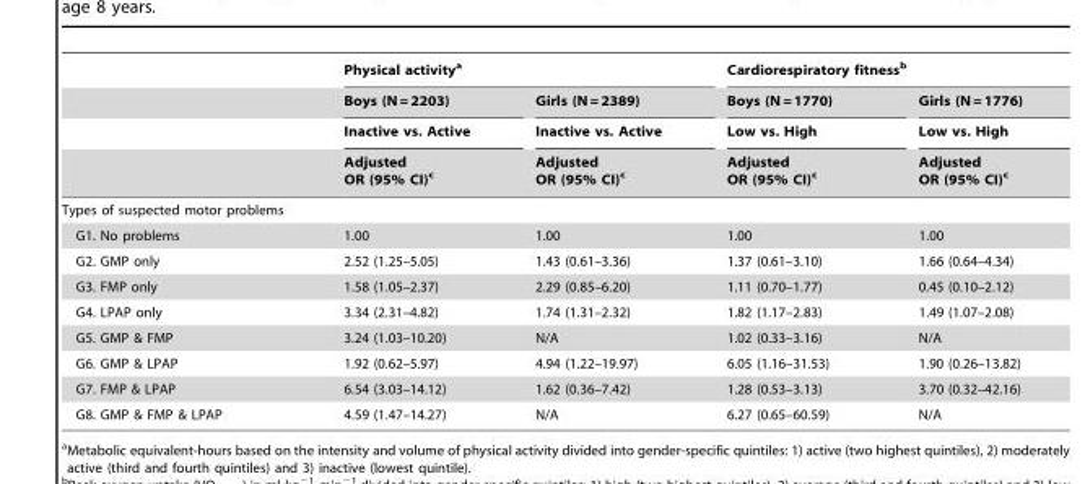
<table><thead><tr><td rowspan="4"></td><td colspan="2">Physical activity<sup>a</sup></td><td colspan="2">Cardiorespiratory fitness<sup>b</sup></td></tr><tr><td rowspan="3">Boys (N = 2203) Inactive vs. Active Adjusted OR (95% CI)<sup>c</sup></td><td rowspan="3">Girls (N = 2389) Inactive vs. Active Adjusted OR (95% CI)<sup>c</sup></td><td rowspan="3">Boys (N = 1770) Low vs. High Adjusted OR (95% CI)<sup>c</sup></td><td rowspan="3">Girls (N = 1776) Low vs. High Adjusted OR (95% CI)<sup>c</sup></td></tr><tr></tr><tr></tr></thead><tbody><tr><td colspan="5">Types of suspected motor problems</td></tr><tr><td>G1. No problems</td><td>1.00</td><td>1.00</td><td>1.00</td><td>1.00</td></tr><tr><td>G2. GMP only</td><td>2.52 (1.25–5.05)</td><td>1.43 (0.61–3.36)</td><td>1.37 (0.61–3.10)</td><td>1.66 (0.64–4.34)</td></tr><tr><td>G3. FMP only</td><td>1.58 (1.05–2.37)</td><td>2.29 (0.85–6.20)</td><td>1.11 (0.70–1.77)</td><td>0.45 (0.10–2.12)</td></tr><tr><td>G4. LPAP only</td><td>3.34 (2.31–4.82)</td><td>1.74 (1.31–2.32)</td><td>1.82 (1.17–2.83)</td><td>1.49 (1.07–2.08)</td></tr><tr><td>G5. GMP &amp; FMP</td><td>3.24 (1.03–10.20)</td><td>N/A</td><td>1.02 (0.33–3.16)</td><td>N/A</td></tr><tr><td>G6. GMP &amp; LPAP</td><td>1.92 (0.62–5.97)</td><td>4.94 (1.22–19.97)</td><td>6.05 (1.16–31.53)</td><td>1.90 (0.26–13.82)</td></tr><tr><td>G7. FMP &amp; LPAP</td><td>6.54 (3.03–14.12)</td><td>1.62 (0.36–7.42)</td><td>1.28 (0.53–3.13)</td><td>3.70 (0.32–42.16)</td></tr><tr><td>G8. GMP &amp; FMP &amp; LPAP</td><td>4.59 (1.47–14.27)</td><td>N/A</td><td>6.27 (0.65–60.59)</td><td>N/A</td></tr></tbody></table>